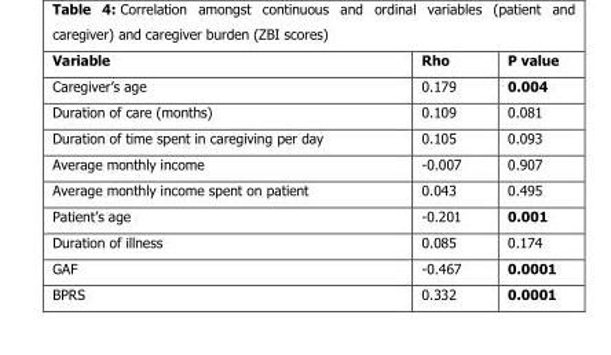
<table><thead><tr><td>Variable</td><td>Rho</td><td>P value</td></tr></thead><tbody><tr><td>Caregiver’s age</td><td>0.179</td><td>0.004</td></tr><tr><td>Duration of care (months)</td><td>0.109</td><td>0.081</td></tr><tr><td>Duration of time spent in caregiving per day</td><td>0.105</td><td>0.093</td></tr><tr><td>Average monthly income</td><td>-0.007</td><td>0.907</td></tr><tr><td>Average monthly income spent on patient</td><td>0.043</td><td>0.495</td></tr><tr><td>Patient’s age</td><td>-0.201</td><td>0.001</td></tr><tr><td>Duration of illness</td><td>0.085</td><td>0.174</td></tr><tr><td>GAF</td><td>-0.467</td><td>0.0001</td></tr><tr><td>BPRS</td><td>0.332</td><td>0.0001</td></tr></tbody></table>